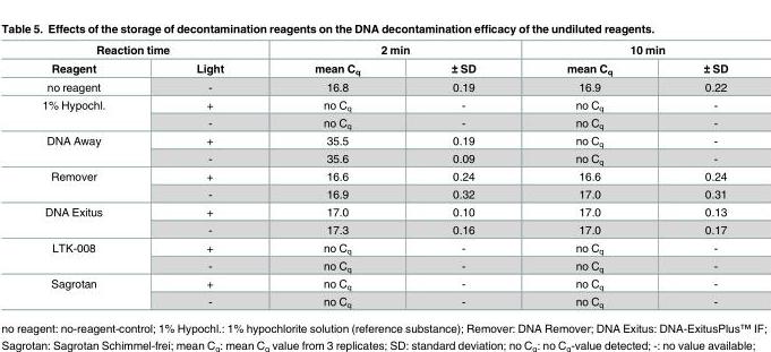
<table><thead><tr><td colspan="2">Reaction time</td><td colspan="2">2 min</td><td colspan="2">10 min</td></tr><tr><td>Reagent</td><td>Light</td><td>mean C<sub>q</sub></td><td>± SD</td><td>mean C<sub>q</sub></td><td>± SD</td></tr></thead><tbody><tr><td>no reagent</td><td>-</td><td>16.8</td><td>0.19</td><td>16.9</td><td>0.22</td></tr><tr><td rowspan="2">1% Hypochl.</td><td>+</td><td>no C<sub>q</sub></td><td>-</td><td>no C<sub>q</sub></td><td>-</td></tr><tr><td>-</td><td>no C<sub>q</sub></td><td>-</td><td>no C<sub>q</sub></td><td>-</td></tr><tr><td rowspan="2">DNA Away</td><td>+</td><td>35.5</td><td>0.19</td><td>no C<sub>q</sub></td><td>-</td></tr><tr><td>-</td><td>35.6</td><td>0.09</td><td>no C<sub>q</sub></td><td>-</td></tr><tr><td rowspan="2">Remover</td><td>+</td><td>16.6</td><td>0.24</td><td>16.6</td><td>0.24</td></tr><tr><td>-</td><td>16.9</td><td>0.32</td><td>17.0</td><td>0.31</td></tr><tr><td rowspan="2">DNA Exitus</td><td>+</td><td>17.0</td><td>0.10</td><td>17.0</td><td>0.13</td></tr><tr><td>-</td><td>17.3</td><td>0.16</td><td>17.0</td><td>0.17</td></tr><tr><td rowspan="2">LTK-008</td><td>+</td><td>no C<sub>q</sub></td><td>-</td><td>no C<sub>q</sub></td><td>-</td></tr><tr><td>-</td><td>no C<sub>q</sub></td><td>-</td><td>no C<sub>q</sub></td><td>-</td></tr><tr><td rowspan="2">Sagrotan</td><td>+</td><td>no C<sub>q</sub></td><td>-</td><td>no C<sub>q</sub></td><td>-</td></tr><tr><td>-</td><td>no C<sub>q</sub></td><td>-</td><td>no C<sub>q</sub></td><td>-</td></tr></tbody></table>